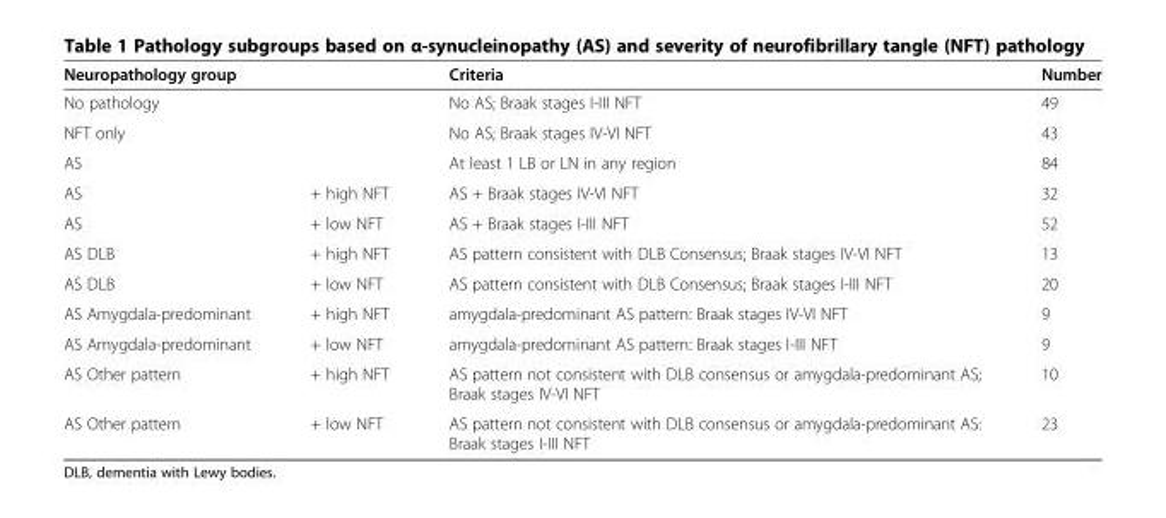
<table><thead><tr><td>Neuropathology group</td><td></td><td>Criteria</td><td>Number</td></tr></thead><tbody><tr><td>No pathology</td><td></td><td>No AS; Braak stages I-III NFT</td><td>49</td></tr><tr><td>NFT only</td><td></td><td>No AS; Braak stages IV-VI NFT</td><td>43</td></tr><tr><td>AS</td><td></td><td>At least 1 LB or LN in any region</td><td>84</td></tr><tr><td>AS</td><td>+ high NFT</td><td>AS + Braak stages IV-VI NFT</td><td>32</td></tr><tr><td>AS</td><td>+ low NFT</td><td>AS + Braak stages I-III NFT</td><td>52</td></tr><tr><td>AS DLB</td><td>+ high NFT</td><td>AS pattern consistent with DLB Consensus; Braak stages IV-VI NFT</td><td>13</td></tr><tr><td>AS DLB</td><td>+ low NFT</td><td>AS pattern consistent with DLB Consensus; Braak stages I-III NFT</td><td>20</td></tr><tr><td>AS Amygdala-predominant</td><td>+ high NFT</td><td>amygdala-predominant AS pattern: Braak stages IV-VI NFT</td><td>9</td></tr><tr><td>AS Amygdala-predominant</td><td>+ low NFT</td><td>amygdala-predominant AS pattern: Braak stages I-III NFT</td><td>9</td></tr><tr><td>AS Other pattern</td><td>+ high NFT</td><td>AS pattern not consistent with DLB consensus or amygdala-predominant AS; Braak stages IV-VI NFT</td><td>10</td></tr><tr><td>AS Other pattern</td><td>+ low NFT</td><td>AS pattern not consistent with DLB consensus or amygdala-predominant AS: Braak stages I-III NFT</td><td>23</td></tr></tbody></table>